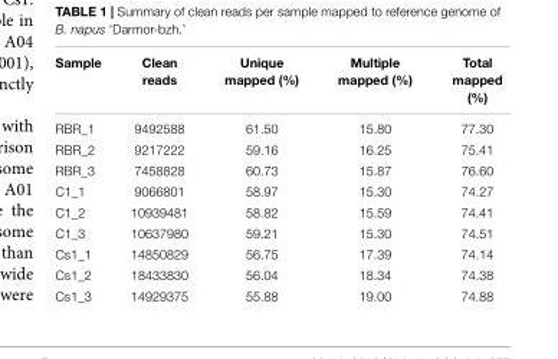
<table><thead><tr><td>Sample</td><td>Clean reads</td><td>Unique mapped (%)</td><td>Multiple mapped (%)</td><td>Total mapped (%)</td></tr></thead><tbody><tr><td>RBR_1</td><td>9492588</td><td>61.50</td><td>15.80</td><td>77.30</td></tr><tr><td>RBR_2</td><td>9217222</td><td>59.16</td><td>16.25</td><td>75.41</td></tr><tr><td>RBR_3</td><td>7458828</td><td>60.73</td><td>15.87</td><td>76.60</td></tr><tr><td>C1_1</td><td>9066801</td><td>58.97</td><td>15.30</td><td>74.27</td></tr><tr><td>C1_2</td><td>10939481</td><td>58.82</td><td>15.59</td><td>74.41</td></tr><tr><td>C1_3</td><td>10637980</td><td>59.21</td><td>15.30</td><td>74.51</td></tr><tr><td>Cs1_1</td><td>14850829</td><td>56.75</td><td>17.39</td><td>74.14</td></tr><tr><td>Cs1_2</td><td>18433830</td><td>56.04</td><td>18.34</td><td>74.38</td></tr><tr><td>Cs1_3</td><td>14929375</td><td>55.88</td><td>19.00</td><td>74.88</td></tr></tbody></table>